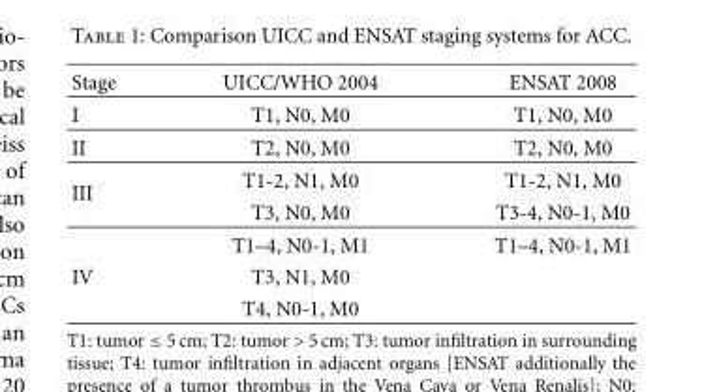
<table><thead><tr><td>Stage</td><td>UICC/WHO 2004</td><td>ENSAT 2008</td></tr></thead><tbody><tr><td>I</td><td>T1, N0, M0</td><td>T1, N0, M0</td></tr><tr><td>II</td><td>T2, N0, M0</td><td>T2, N0, M0</td></tr><tr><td rowspan="3">III</td><td>T1-2, N1, M0</td><td>T1-2, N1, M0</td></tr><tr><td>T3, N0, M0</td><td>T3-4, N0-1, M0</td></tr><tr><td>T1–4, N0-1, M1</td><td>T1–4, N0-1, M1</td></tr><tr><td rowspan="2">IV</td><td>T3, N1, M0</td><td></td></tr><tr><td>T4, N0-1, M0</td><td></td></tr></tbody></table>